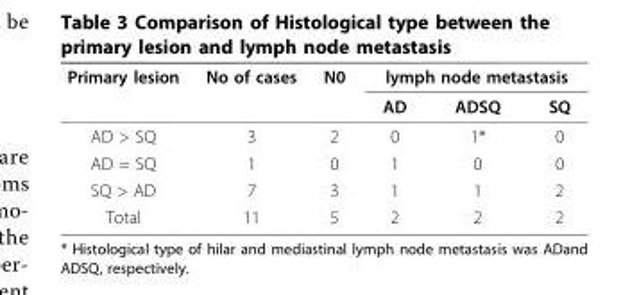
<table><thead><tr><td rowspan="2">Primary lesion</td><td rowspan="2">No of cases</td><td rowspan="2">N0</td><td colspan="3">lymph node metastasis</td></tr><tr><td>AD</td><td>ADSQ</td><td>SQ</td></tr></thead><tbody><tr><td>AD &gt; SQ</td><td>3</td><td>2</td><td>0</td><td>1*</td><td>0</td></tr><tr><td>AD = SQ</td><td>1</td><td>0</td><td>1</td><td>0</td><td>0</td></tr><tr><td>SQ &gt; AD</td><td>7</td><td>3</td><td>1</td><td>1</td><td>2</td></tr><tr><td>Total</td><td>11</td><td>5</td><td>2</td><td>2</td><td>2</td></tr></tbody></table>